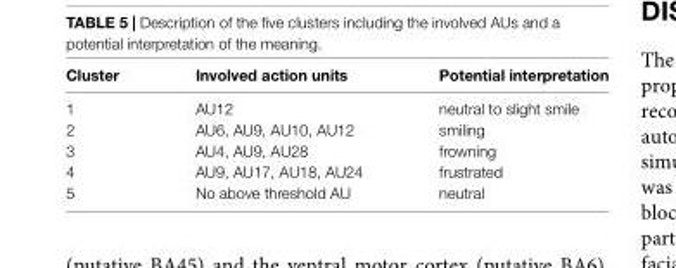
<table><thead><tr><td>Cluster</td><td>Involved action units</td><td>Potential interpretation</td></tr></thead><tbody><tr><td>1</td><td>AU12</td><td>neutral to slight smile</td></tr><tr><td>2</td><td>AU6, AU9, AU10, AU12</td><td>smiling</td></tr><tr><td>3</td><td>AU4, AU9, AU28</td><td>frowning</td></tr><tr><td>4</td><td>AU9, AU17, AU18, AU24</td><td>frustrated</td></tr><tr><td>5</td><td>No above threshold AU</td><td>neutral</td></tr></tbody></table>